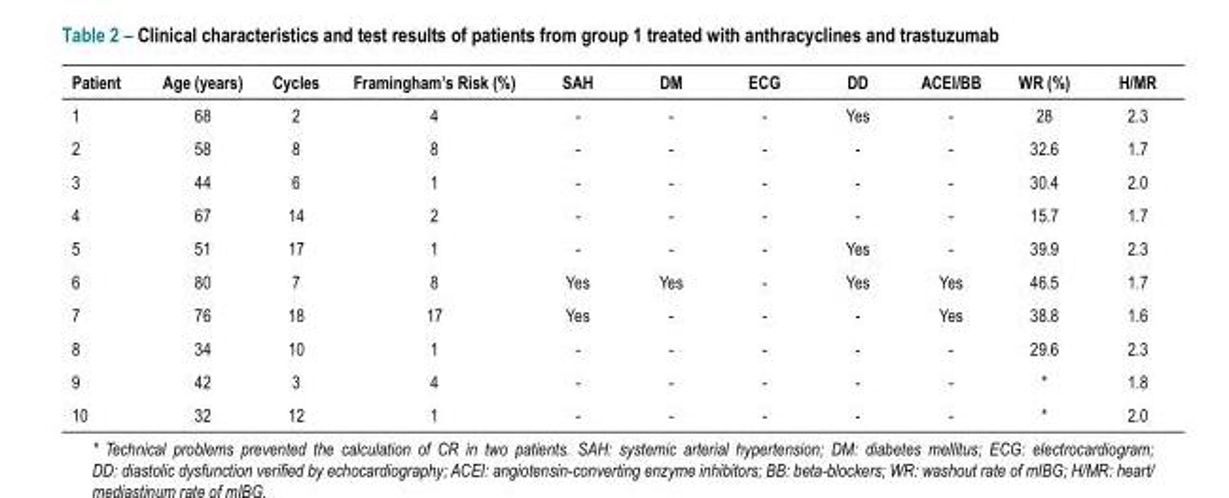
<table><thead><tr><td>Patient</td><td>Age (years)</td><td>Cycles</td><td>Framingham’s Risk (%)</td><td>SAH</td><td>DM</td><td>ECG</td><td>DD</td><td>ACEI/BB</td><td>WR (%)</td><td>H/MR</td></tr></thead><tbody><tr><td>1</td><td>68</td><td>2</td><td>4</td><td>-</td><td>-</td><td>-</td><td>Yes</td><td>-</td><td>28</td><td>2.3</td></tr><tr><td>2</td><td>58</td><td>8</td><td>8</td><td>-</td><td>-</td><td>-</td><td>-</td><td>-</td><td>32.6</td><td>1.7</td></tr><tr><td>3</td><td>44</td><td>6</td><td>1</td><td>-</td><td>-</td><td>-</td><td>-</td><td>-</td><td>30.4</td><td>2.0</td></tr><tr><td>4</td><td>67</td><td>14</td><td>2</td><td>-</td><td>-</td><td>-</td><td>-</td><td>-</td><td>15.7</td><td>1.7</td></tr><tr><td>5</td><td>51</td><td>17</td><td>1</td><td>-</td><td>-</td><td>-</td><td>Yes</td><td>-</td><td>39.9</td><td>2.3</td></tr><tr><td>6</td><td>80</td><td>7</td><td>8</td><td>Yes</td><td>Yes</td><td>-</td><td>Yes</td><td>Yes</td><td>46.5</td><td>1.7</td></tr><tr><td>7</td><td>76</td><td>18</td><td>17</td><td>Yes</td><td>-</td><td>-</td><td>-</td><td>Yes</td><td>38.8</td><td>1.6</td></tr><tr><td>8</td><td>34</td><td>10</td><td>1</td><td>-</td><td>-</td><td>-</td><td>-</td><td>-</td><td>29.6</td><td>2.3</td></tr><tr><td>9</td><td>42</td><td>3</td><td>4</td><td>-</td><td>-</td><td>-</td><td>-</td><td>-</td><td>*</td><td>1.8</td></tr><tr><td>10</td><td>32</td><td>12</td><td>1</td><td>-</td><td>-</td><td>-</td><td>-</td><td>-</td><td>*</td><td>2.0</td></tr></tbody></table>